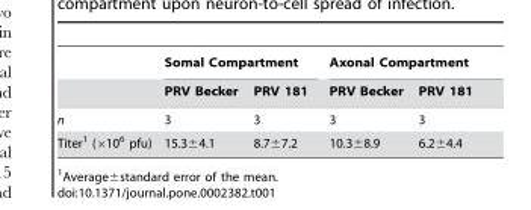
<table><thead><tr><td rowspan="2"></td><td colspan="2">Somal Compartment</td><td colspan="2">Axonal Compartment</td></tr><tr><td>PRV Becker</td><td>PRV 181</td><td>PRV Becker</td><td>PRV 181</td></tr></thead><tbody><tr><td>n</td><td>3</td><td>3</td><td>3</td><td>3</td></tr><tr><td>Titer<sup>1</sup> (×10<sup>6</sup> pfu)</td><td>15.3±4.1</td><td>8.7±7.2</td><td>10.3±8.9</td><td>6.2±4.4</td></tr></tbody></table>